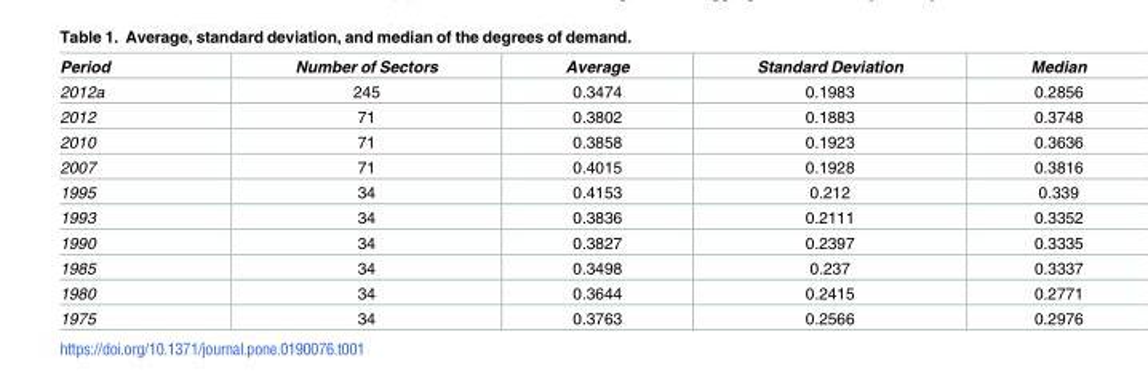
<table><thead><tr><td>Period</td><td>Number of Sectors</td><td>Average</td><td>Standard Deviation</td><td>Median</td></tr></thead><tbody><tr><td>2012a</td><td>245</td><td>0.3474</td><td>0.1983</td><td>0.2856</td></tr><tr><td>2012</td><td>71</td><td>0.3802</td><td>0.1883</td><td>0.3748</td></tr><tr><td>2010</td><td>71</td><td>0.3858</td><td>0.1923</td><td>0.3636</td></tr><tr><td>2007</td><td>71</td><td>0.4015</td><td>0.1928</td><td>0.3816</td></tr><tr><td>1995</td><td>34</td><td>0.4153</td><td>0.212</td><td>0.339</td></tr><tr><td>1993</td><td>34</td><td>0.3836</td><td>0.2111</td><td>0.3352</td></tr><tr><td>1990</td><td>34</td><td>0.3827</td><td>0.2397</td><td>0.3335</td></tr><tr><td>1985</td><td>34</td><td>0.3498</td><td>0.237</td><td>0.3337</td></tr><tr><td>1980</td><td>34</td><td>0.3644</td><td>0.2415</td><td>0.2771</td></tr><tr><td>1975</td><td>34</td><td>0.3763</td><td>0.2566</td><td>0.2976</td></tr></tbody></table>